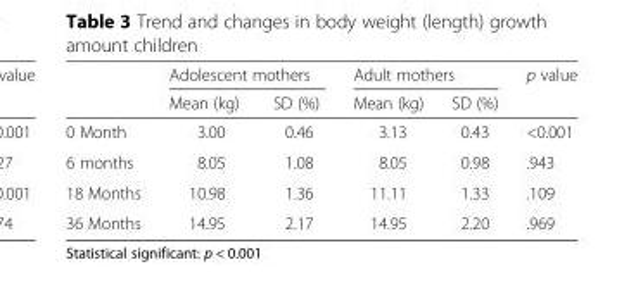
<table><thead><tr><td rowspan="2"></td><td colspan="2">Adolescent mothers</td><td colspan="2">Adult mothers</td><td rowspan="2">p value</td></tr><tr><td>Mean (kg)</td><td>SD (%)</td><td>Mean (kg)</td><td>SD (%)</td></tr></thead><tbody><tr><td>0 Month</td><td>3.00</td><td>0.46</td><td>3.13</td><td>0.43</td><td>&lt;0.001</td></tr><tr><td>6 months</td><td>8.05</td><td>1.08</td><td>8.05</td><td>0.98</td><td>.943</td></tr><tr><td>18 Months</td><td>10.98</td><td>1.36</td><td>11.11</td><td>1.33</td><td>.109</td></tr><tr><td>36 Months</td><td>14.95</td><td>2.17</td><td>14.95</td><td>2.20</td><td>.969</td></tr></tbody></table>